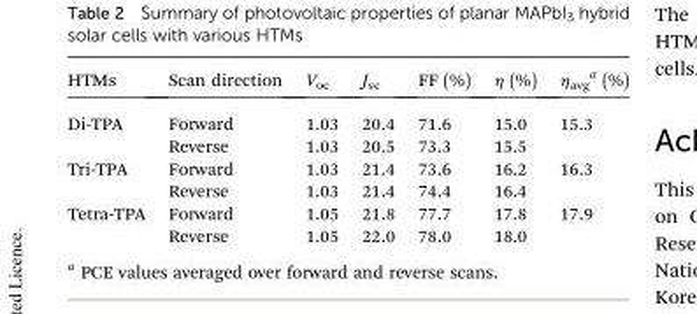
<table><thead><tr><td>HTMs</td><td>Scan direction</td><td>V<sub>oc</sub></td><td>J<sub>sc</sub></td><td>FF (%)</td><td>η (%)</td><td>η<sub>avg</sub> <sup>a</sup> (%)</td></tr></thead><tbody><tr><td rowspan="2">Di-TPA</td><td>Forward</td><td>1.03</td><td>20.4</td><td>71.6</td><td>15.0</td><td rowspan="2">15.3</td></tr><tr><td>Reverse</td><td>1.03</td><td>20.5</td><td>73.3</td><td>15.5</td></tr><tr><td rowspan="2">Tri-TPA</td><td>Forward</td><td>1.03</td><td>21.4</td><td>73.6</td><td>16.2</td><td rowspan="2">16.3</td></tr><tr><td>Reverse</td><td>1.03</td><td>21.4</td><td>74.4</td><td>16.4</td></tr><tr><td rowspan="2">Tetra-TPA</td><td>Forward</td><td>1.05</td><td>21.8</td><td>77.7</td><td>17.8</td><td rowspan="2">17.9</td></tr><tr><td>Reverse</td><td>1.05</td><td>22.0</td><td>78.0</td><td>18.0</td></tr></tbody></table>